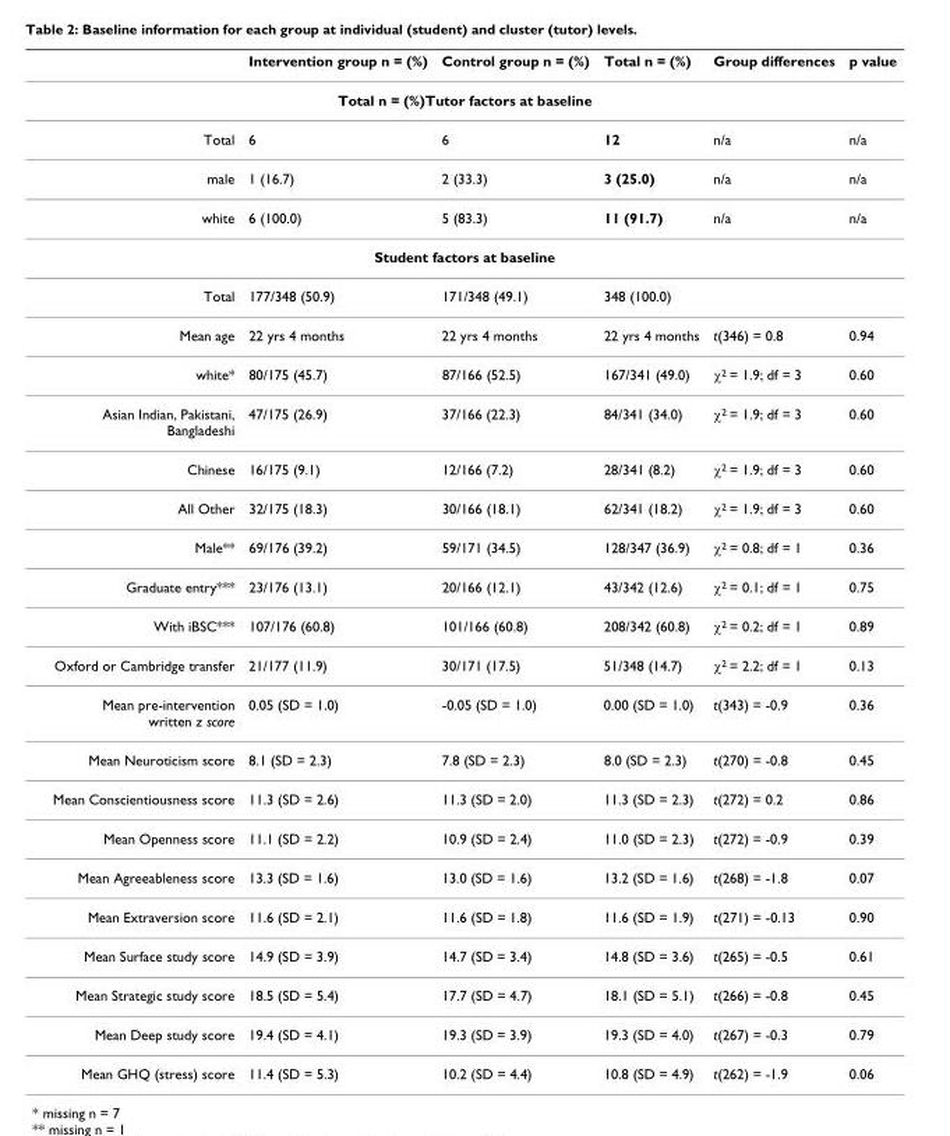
<table><thead><tr><td></td><td>Intervention group n = (%)</td><td>Control group n = (%)</td><td>Total n = (%)</td><td>Group differences</td><td>p value</td></tr></thead><tbody><tr><td colspan="6">Total n = (%)Tutor factors at baseline</td></tr><tr><td>Total</td><td>6</td><td>6</td><td>12</td><td>n/a</td><td>n/a</td></tr><tr><td>male</td><td>1 (16.7)</td><td>2 (33.3)</td><td>3 (25.0)</td><td>n/a</td><td>n/a</td></tr><tr><td>white</td><td>6 (100.0)</td><td>5 (83.3)</td><td>11 (91.7)</td><td>n/a</td><td>n/a</td></tr><tr><td colspan="6">Student factors at baseline</td></tr><tr><td>Total</td><td>177/348 (50.9)</td><td>171/348 (49.1)</td><td>348 (100.0)</td><td></td><td></td></tr><tr><td>Mean age</td><td>22 yrs 4 months</td><td>22 yrs 4 months</td><td>22 yrs 4 months</td><td>t(346) = 0.8</td><td>0.94</td></tr><tr><td>white*</td><td>80/175 (45.7)</td><td>87/166 (52.5)</td><td>167/341 (49.0)</td><td>χ<sup>2</sup> = 1.9; df = 3</td><td>0.60</td></tr><tr><td>Asian Indian, Pakistani, Bangladeshi</td><td>47/175 (26.9)</td><td>37/166 (22.3)</td><td>84/341 (34.0)</td><td>χ<sup>2</sup> = 1.9; df = 3</td><td>0.60</td></tr><tr><td>Chinese</td><td>16/175 (9.1)</td><td>12/166 (7.2)</td><td>28/341 (8.2)</td><td>χ<sup>2</sup> = 1.9; df = 3</td><td>0.60</td></tr><tr><td>All Other</td><td>32/175 (18.3)</td><td>30/166 (18.1)</td><td>62/341 (18.2)</td><td>χ<sup>2</sup> = 1.9; df = 3</td><td>0.60</td></tr><tr><td>Male**</td><td>69/176 (39.2)</td><td>59/171 (34.5)</td><td>128/347 (36.9)</td><td>χ<sup>2</sup> = 0.8; df = 1</td><td>0.36</td></tr><tr><td>Graduate entry***</td><td>23/176 (13.1)</td><td>20/166 (12.1)</td><td>43/342 (12.6)</td><td>χ<sup>2</sup> = 0.1; df = 1</td><td>0.75</td></tr><tr><td>With iBSC***</td><td>107/176 (60.8)</td><td>101/166 (60.8)</td><td>208/342 (60.8)</td><td>χ<sup>2</sup> = 0.2; df = 1</td><td>0.89</td></tr><tr><td>Oxford or Cambridge transfer</td><td>21/177 (11.9)</td><td>30/171 (17.5)</td><td>51/348 (14.7)</td><td>χ<sup>2</sup> = 2.2; df = 1</td><td>0.13</td></tr><tr><td>Mean pre-intervention written z score</td><td>0.05 (SD = 1.0)</td><td>-0.05 (SD = 1.0)</td><td>0.00 (SD = 1.0)</td><td>t(343) = -0.9</td><td>0.36</td></tr><tr><td>Mean Neuroticism score</td><td>8.1 (SD = 2.3)</td><td>7.8 (SD = 2.3)</td><td>8.0 (SD = 2.3)</td><td>t(270) = -0.8</td><td>0.45</td></tr><tr><td>Mean Conscientiousness score</td><td>11.3 (SD = 2.6)</td><td>11.3 (SD = 2.0)</td><td>11.3 (SD = 2.3)</td><td>t(272) = 0.2</td><td>0.86</td></tr><tr><td>Mean Openness score</td><td>11.1 (SD = 2.2)</td><td>10.9 (SD = 2.4)</td><td>11.0 (SD = 2.3)</td><td>t(272) = -0.9</td><td>0.39</td></tr><tr><td>Mean Agreeableness score</td><td>13.3 (SD = 1.6)</td><td>13.0 (SD = 1.6)</td><td>13.2 (SD = 1.6)</td><td>t(268) = -1.8</td><td>0.07</td></tr><tr><td>Mean Extraversion score</td><td>11.6 (SD = 2.1)</td><td>11.6 (SD = 1.8)</td><td>11.6 (SD = 1.9)</td><td>t(271) = -0.13</td><td>0.90</td></tr><tr><td>Mean Surface study score</td><td>14.9 (SD = 3.9)</td><td>14.7 (SD = 3.4)</td><td>14.8 (SD = 3.6)</td><td>t(265) = -0.5</td><td>0.61</td></tr><tr><td>Mean Strategic study score</td><td>18.5 (SD = 5.4)</td><td>17.7 (SD = 4.7)</td><td>18.1 (SD = 5.1)</td><td>t(266) = -0.8</td><td>0.45</td></tr><tr><td>Mean Deep study score</td><td>19.4 (SD = 4.1)</td><td>19.3 (SD = 3.9)</td><td>19.3 (SD = 4.0)</td><td>t(267) = -0.3</td><td>0.79</td></tr><tr><td>Mean GHQ (stress) score</td><td>11.4 (SD = 5.3)</td><td>10.2 (SD = 4.4)</td><td>10.8 (SD = 4.9)</td><td>t(262) = -1.9</td><td>0.06</td></tr></tbody></table>